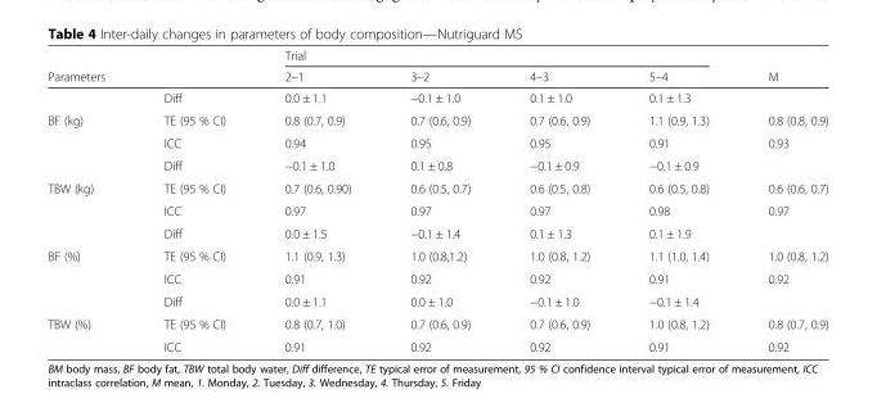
<table><thead><tr><td rowspan="2">Parameters</td><td rowspan="2"></td><td colspan="4">Trial</td><td rowspan="2">M</td></tr><tr><td>2–1</td><td>3–2</td><td>4–3</td><td>5–4</td></tr></thead><tbody><tr><td></td><td>Diff</td><td>0.0 ± 1.1</td><td>−0.1 ± 1.0</td><td>0.1 ± 1.0</td><td>0.1 ± 1.3</td><td></td></tr><tr><td rowspan="3">BF (kg)</td><td>TE (95 % CI)</td><td>0.8 (0.7, 0.9)</td><td>0.7 (0.6, 0.9)</td><td>0.7 (0.6, 0.9)</td><td>1.1 (0.9, 1.3)</td><td>0.8 (0.8, 0.9)</td></tr><tr><td>ICC</td><td>0.94</td><td>0.95</td><td>0.95</td><td>0.91</td><td>0.93</td></tr><tr><td>Diff</td><td>−0.1 ± 1.0</td><td>0.1 ± 0.8</td><td>−0.1 ± 0.9</td><td>−0.1 ± 0.9</td><td></td></tr><tr><td rowspan="3">TBW (kg)</td><td>TE (95 % CI)</td><td>0.7 (0.6, 0.90)</td><td>0.6 (0.5, 0.7)</td><td>0.6 (0.5, 0.8)</td><td>0.6 (0.5, 0.8)</td><td>0.6 (0.6, 0.7)</td></tr><tr><td>ICC</td><td>0.97</td><td>0.97</td><td>0.97</td><td>0.98</td><td>0.97</td></tr><tr><td>Diff</td><td>0.0 ± 1.5</td><td>−0.1 ± 1.4</td><td>0.1 ± 1.3</td><td>0.1 ± 1.9</td><td></td></tr><tr><td rowspan="3">BF (%)</td><td>TE (95 % CI)</td><td>1.1 (0.9, 1.3)</td><td>1.0 (0.8,1.2)</td><td>1.0 (0.8, 1.2)</td><td>1.1 (1.0, 1.4)</td><td>1.0 (0.8, 1.2)</td></tr><tr><td>ICC</td><td>0.91</td><td>0.92</td><td>0.92</td><td>0.91</td><td>0.92</td></tr><tr><td>Diff</td><td>0.0 ± 1.1</td><td>0.0 ± 1.0</td><td>−0.1 ± 1.0</td><td>−0.1 ± 1.4</td><td></td></tr><tr><td rowspan="2">TBW (%)</td><td>TE (95 % CI)</td><td>0.8 (0.7, 1.0)</td><td>0.7 (0.6, 0.9)</td><td>0.7 (0.6, 0.9)</td><td>1.0 (0.8, 1.2)</td><td>0.8 (0.7, 0.9)</td></tr><tr><td>ICC</td><td>0.91</td><td>0.92</td><td>0.92</td><td>0.91</td><td>0.92</td></tr></tbody></table>